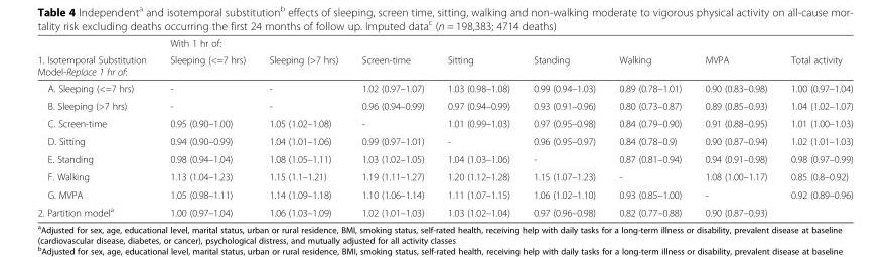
<table><thead><tr><td rowspan="2">1. Isotemporal Substitution Model-Replace 1 hr of:</td><td rowspan="2">With 1 hr of: Sleeping (&lt;=7 hrs)</td><td rowspan="2">Sleeping (&gt;7 hrs)</td><td rowspan="2">Screen-time</td><td rowspan="2">Sitting</td><td rowspan="2">Standing</td><td rowspan="2">Walking</td><td rowspan="2">MVPA</td><td rowspan="2">Total activity</td></tr><tr></tr></thead><tbody><tr><td>A. Sleeping (&lt;=7 hrs)</td><td>-</td><td>-</td><td>1.02 (0.97–1.07)</td><td>1.03 (0.98–1.08)</td><td>0.99 (0.94–1.03)</td><td>0.89 (0.78–1.01)</td><td>0.90 (0.83–0.98)</td><td>1.00 (0.97–1.04)</td></tr><tr><td>B. Sleeping (&gt;7 hrs)</td><td>-</td><td>-</td><td>0.96 (0.94–0.99)</td><td>0.97 (0.94–0.99)</td><td>0.93 (0.91–0.96)</td><td>0.80 (0.73–0.87)</td><td>0.89 (0.85–0.93)</td><td>1.04 (1.02–1.07)</td></tr><tr><td>C. Screen-time</td><td>0.95 (0.90–1.00)</td><td>1.05 (1.02–1.08)</td><td>-</td><td>1.01 (0.99–1.03)</td><td>0.97 (0.95–0.98)</td><td>0.84 (0.79–0.90)</td><td>0.91 (0.88–0.95)</td><td>1.01 (1.00–1.03)</td></tr><tr><td>D. Sitting</td><td>0.94 (0.90–0.99)</td><td>1.04 (1.01–1.06)</td><td>0.99 (0.97–1.01)</td><td>-</td><td>0.96 (0.95–0.97)</td><td>0.84 (0.78–0.9)</td><td>0.90 (0.87–0.94)</td><td>1.02 (1.01–1.03)</td></tr><tr><td>E. Standing</td><td>0.98 (0.94–1.04)</td><td>1.08 (1.05–1.11)</td><td>1.03 (1.02–1.05)</td><td>1.04 (1.03–1.06)</td><td>-</td><td>0.87 (0.81–0.94)</td><td>0.94 (0.91–0.98)</td><td>0.98 (0.97–0.99)</td></tr><tr><td>F. Walking</td><td>1.13 (1.04–1.23)</td><td>1.15 (1.1–1.21)</td><td>1.19 (1.11–1.27)</td><td>1.20 (1.12–1.28)</td><td>1.15 (1.07–1.23)</td><td>-</td><td>1.08 (1.00–1.17)</td><td>0.85 (0.8–0.92)</td></tr><tr><td>G. MVPA</td><td>1.05 (0.98–1.11)</td><td>1.14 (1.09–1.18)</td><td>1.10 (1.06–1.14)</td><td>1.11 (1.07–1.15)</td><td>1.06 (1.02–1.10)</td><td>0.93 (0.85–1.00)</td><td>-</td><td>0.92 (0.89–0.96)</td></tr><tr><td>2. Partition model<sup>a</sup></td><td>1.00 (0.97–1.04)</td><td>1.06 (1.03–1.09)</td><td>1.02 (1.01–1.03)</td><td>1.03 (1.02–1.04)</td><td>0.97 (0.96–0.98)</td><td>0.82 (0.77–0.88)</td><td>0.90 (0.87–0.93)</td><td></td></tr></tbody></table>